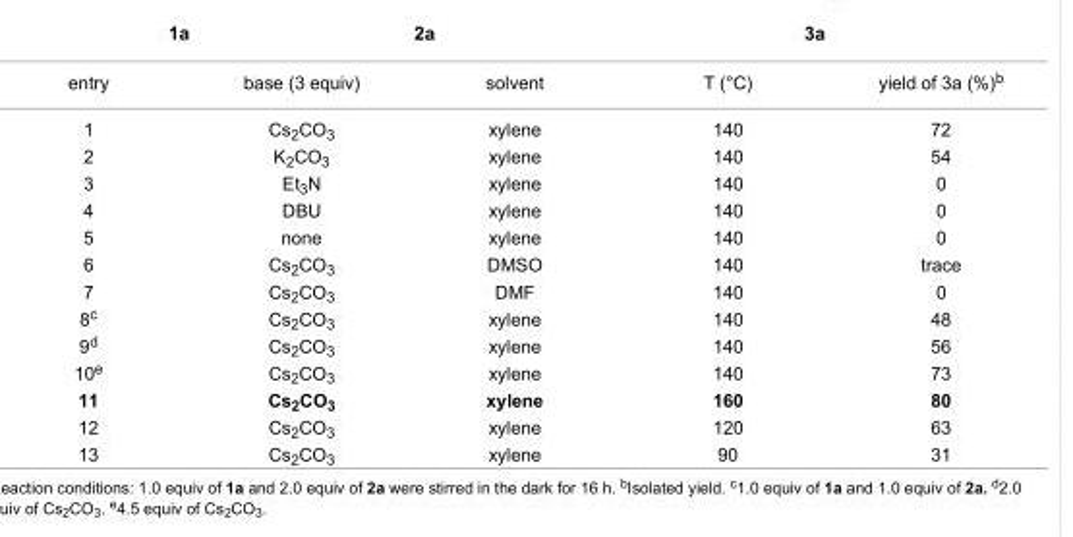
<table><tbody><tr><td>entry</td><td>base (3 equiv)</td><td>solvent</td><td>T (°C)</td><td>yield of 3a (%)<sup>b</sup></td></tr><tr><td>1</td><td>Cs<sub>2</sub>CO<sub>3</sub></td><td>xylene</td><td>140</td><td>72</td></tr><tr><td>2</td><td>K<sub>2</sub>CO<sub>3</sub></td><td>xylene</td><td>140</td><td>54</td></tr><tr><td>3</td><td>Et<sub>3</sub>N</td><td>xylene</td><td>140</td><td>0</td></tr><tr><td>4</td><td>DBU</td><td>xylene</td><td>140</td><td>0</td></tr><tr><td>5</td><td>none</td><td>xylene</td><td>140</td><td>0</td></tr><tr><td>6</td><td>Cs<sub>2</sub>CO<sub>3</sub></td><td>DMSO</td><td>140</td><td>trace</td></tr><tr><td>7</td><td>Cs<sub>2</sub>CO<sub>3</sub></td><td>DMF</td><td>140</td><td>0</td></tr><tr><td>8<sup>c</sup></td><td>Cs<sub>2</sub>CO<sub>3</sub></td><td>xylene</td><td>140</td><td>48</td></tr><tr><td>9<sup>d</sup></td><td>Cs<sub>2</sub>CO<sub>3</sub></td><td>xylene</td><td>140</td><td>56</td></tr><tr><td>10<sup>e</sup></td><td>Cs<sub>2</sub>CO<sub>3</sub></td><td>xylene</td><td>140</td><td>73</td></tr><tr><td>11</td><td>Cs<sub>2</sub>CO<sub>3</sub></td><td>xylene</td><td>160</td><td>80</td></tr><tr><td>12</td><td>Cs<sub>2</sub>CO<sub>3</sub></td><td>xylene</td><td>120</td><td>63</td></tr><tr><td>13</td><td>Cs<sub>2</sub>CO<sub>3</sub></td><td>xylene</td><td>90</td><td>31</td></tr></tbody></table>